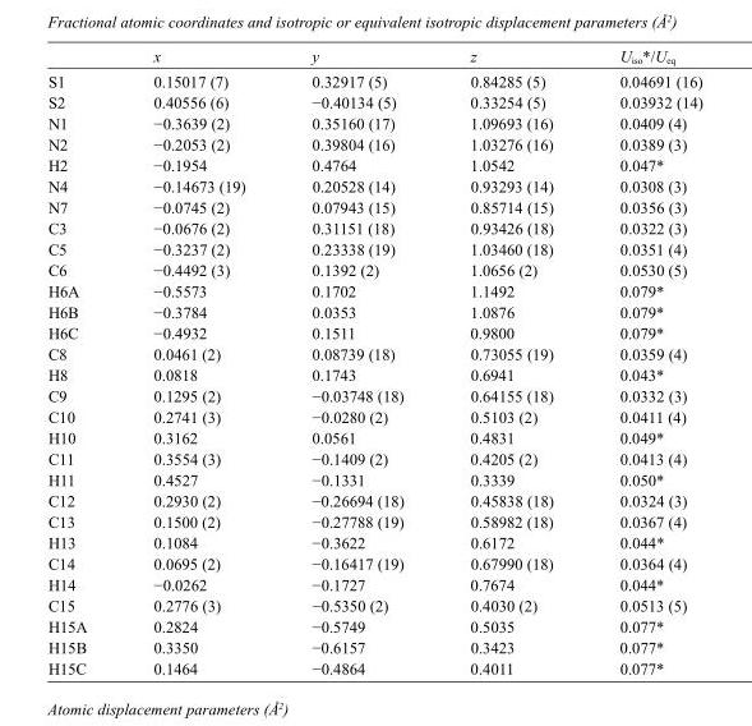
<table><thead><tr><td></td><td>x</td><td>y</td><td>z</td><td>U<sub>iso</sub>*/U<sub>eq</sub></td></tr></thead><tbody><tr><td>S1</td><td>0.15017 (7)</td><td>0.32917 (5)</td><td>0.84285 (5)</td><td>0.04691 (16)</td></tr><tr><td>S2</td><td>0.40556 (6)</td><td>−0.40134 (5)</td><td>0.33254 (5)</td><td>0.03932 (14)</td></tr><tr><td>N1</td><td>−0.3639 (2)</td><td>0.35160 (17)</td><td>1.09693 (16)</td><td>0.0409 (4)</td></tr><tr><td>N2</td><td>−0.2053 (2)</td><td>0.39804 (16)</td><td>1.03276 (16)</td><td>0.0389 (3)</td></tr><tr><td>H2</td><td>−0.1954</td><td>0.4764</td><td>1.0542</td><td>0.047*</td></tr><tr><td>N4</td><td>−0.14673 (19)</td><td>0.20528 (14)</td><td>0.93293 (14)</td><td>0.0308 (3)</td></tr><tr><td>N7</td><td>−0.0745 (2)</td><td>0.07943 (15)</td><td>0.85714 (15)</td><td>0.0356 (3)</td></tr><tr><td>C3</td><td>−0.0676 (2)</td><td>0.31151 (18)</td><td>0.93426 (18)</td><td>0.0322 (3)</td></tr><tr><td>C5</td><td>−0.3237 (2)</td><td>0.23338 (19)</td><td>1.03460 (18)</td><td>0.0351 (4)</td></tr><tr><td>C6</td><td>−0.4492 (3)</td><td>0.1392 (2)</td><td>1.0656 (2)</td><td>0.0530 (5)</td></tr><tr><td>H6A</td><td>−0.5573</td><td>0.1702</td><td>1.1492</td><td>0.079*</td></tr><tr><td>H6B</td><td>−0.3784</td><td>0.0353</td><td>1.0876</td><td>0.079*</td></tr><tr><td>H6C</td><td>−0.4932</td><td>0.1511</td><td>0.9800</td><td>0.079*</td></tr><tr><td>C8</td><td>0.0461 (2)</td><td>0.08739 (18)</td><td>0.73055 (19)</td><td>0.0359 (4)</td></tr><tr><td>H8</td><td>0.0818</td><td>0.1743</td><td>0.6941</td><td>0.043*</td></tr><tr><td>C9</td><td>0.1295 (2)</td><td>−0.03748 (18)</td><td>0.64155 (18)</td><td>0.0332 (3)</td></tr><tr><td>C10</td><td>0.2741 (3)</td><td>−0.0280 (2)</td><td>0.5103 (2)</td><td>0.0411 (4)</td></tr><tr><td>H10</td><td>0.3162</td><td>0.0561</td><td>0.4831</td><td>0.049*</td></tr><tr><td>C11</td><td>0.3554 (3)</td><td>−0.1409 (2)</td><td>0.4205 (2)</td><td>0.0413 (4)</td></tr><tr><td>H11</td><td>0.4527</td><td>−0.1331</td><td>0.3339</td><td>0.050*</td></tr><tr><td>C12</td><td>0.2930 (2)</td><td>−0.26694 (18)</td><td>0.45838 (18)</td><td>0.0324 (3)</td></tr><tr><td>C13</td><td>0.1500 (2)</td><td>−0.27788 (19)</td><td>0.58982 (18)</td><td>0.0367 (4)</td></tr><tr><td>H13</td><td>0.1084</td><td>−0.3622</td><td>0.6172</td><td>0.044*</td></tr><tr><td>C14</td><td>0.0695 (2)</td><td>−0.16417 (19)</td><td>0.67990 (18)</td><td>0.0364 (4)</td></tr><tr><td>H14</td><td>−0.0262</td><td>−0.1727</td><td>0.7674</td><td>0.044*</td></tr><tr><td>C15</td><td>0.2776 (3)</td><td>−0.5350 (2)</td><td>0.4030 (2)</td><td>0.0513 (5)</td></tr><tr><td>H15A</td><td>0.2824</td><td>−0.5749</td><td>0.5035</td><td>0.077*</td></tr><tr><td>H15B</td><td>0.3350</td><td>−0.6157</td><td>0.3423</td><td>0.077*</td></tr><tr><td>H15C</td><td>0.1464</td><td>−0.4864</td><td>0.4011</td><td>0.077*</td></tr></tbody></table>